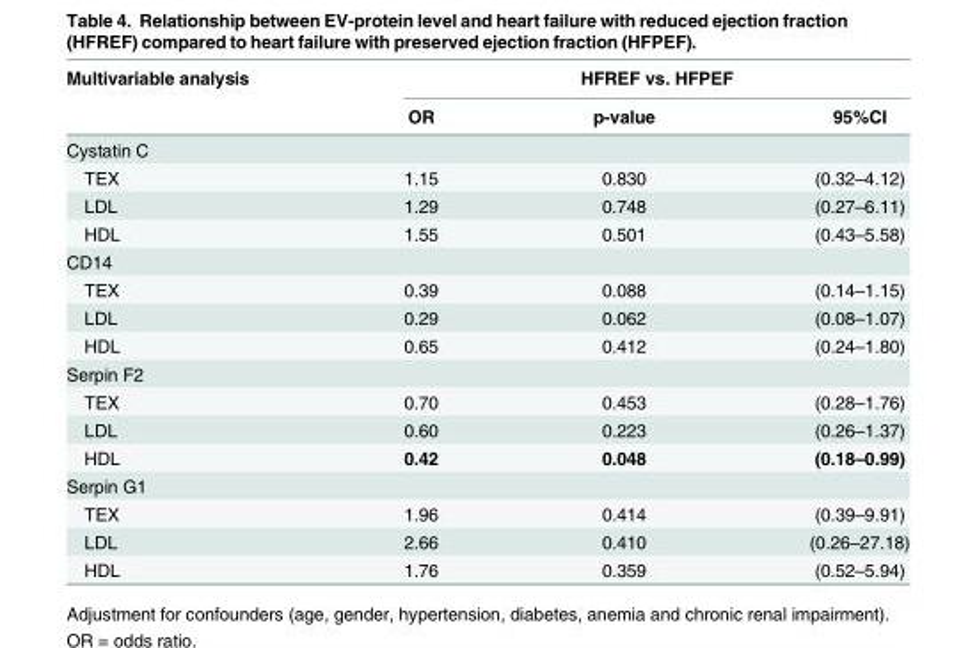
<table><thead><tr><td rowspan="2">Multivariable analysis</td><td colspan="3">HFREF vs. HFPEF</td></tr><tr><td>OR</td><td>p-value</td><td>95%CI</td></tr></thead><tbody><tr><td colspan="4">Cystatin C</td></tr><tr><td>TEX</td><td>1.15</td><td>0.830</td><td>(0.32–4.12)</td></tr><tr><td>LDL</td><td>1.29</td><td>0.748</td><td>(0.27–6.11)</td></tr><tr><td>HDL</td><td>1.55</td><td>0.501</td><td>(0.43–5.58)</td></tr><tr><td colspan="4">CD14</td></tr><tr><td>TEX</td><td>0.39</td><td>0.088</td><td>(0.14–1.15)</td></tr><tr><td>LDL</td><td>0.29</td><td>0.062</td><td>(0.08–1.07)</td></tr><tr><td>HDL</td><td>0.65</td><td>0.412</td><td>(0.24–1.80)</td></tr><tr><td colspan="4">Serpin F2</td></tr><tr><td>TEX</td><td>0.70</td><td>0.453</td><td>(0.28–1.76)</td></tr><tr><td>LDL</td><td>0.60</td><td>0.223</td><td>(0.26–1.37)</td></tr><tr><td>HDL</td><td>0.42</td><td>0.048</td><td>(0.18–0.99)</td></tr><tr><td colspan="4">Serpin G1</td></tr><tr><td>TEX</td><td>1.96</td><td>0.414</td><td>(0.39–9.91)</td></tr><tr><td>LDL</td><td>2.66</td><td>0.410</td><td>(0.26–27.18)</td></tr><tr><td>HDL</td><td>1.76</td><td>0.359</td><td>(0.52–5.94)</td></tr></tbody></table>